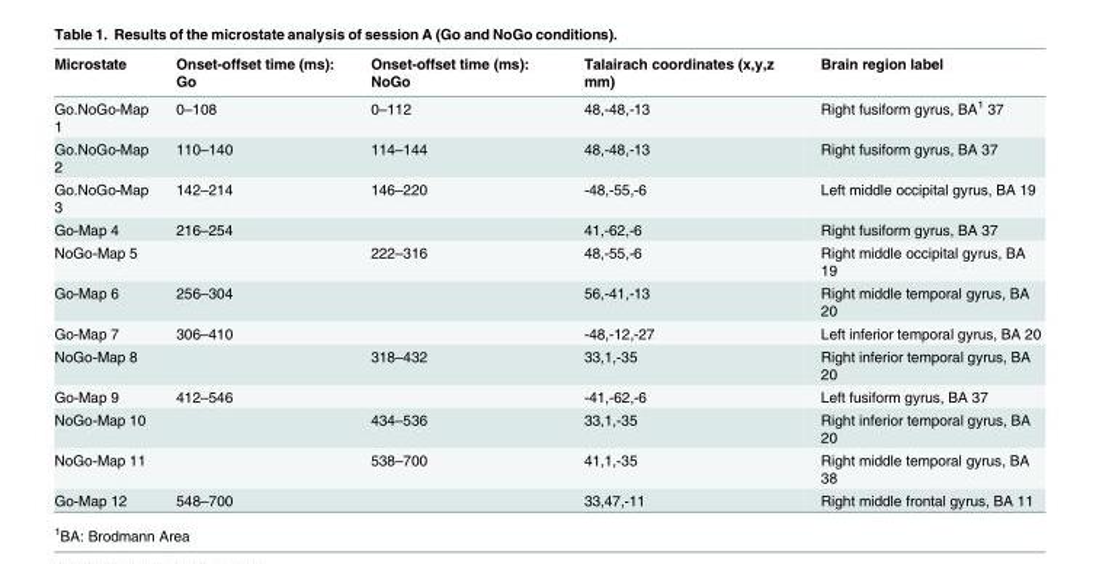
<table><thead><tr><td>Microstate</td><td>Onset-offset time (ms): Go</td><td>Onset-offset time (ms): NoGo</td><td>Talairach coordinates (x,y,z mm)</td><td>Brain region label</td></tr></thead><tbody><tr><td>Go.NoGo-Map 1</td><td>0–108</td><td>0–112</td><td>48,-48,-13</td><td>Right fusiform gyrus, BA<sup>1</sup> 37</td></tr><tr><td>Go.NoGo-Map 2</td><td>110–140</td><td>114–144</td><td>48,-48,-13</td><td>Right fusiform gyrus, BA 37</td></tr><tr><td>Go.NoGo-Map 3</td><td>142–214</td><td>146–220</td><td>-48,-55,-6</td><td>Left middle occipital gyrus, BA 19</td></tr><tr><td>Go-Map 4</td><td>216–254</td><td></td><td>41,-62,-6</td><td>Right fusiform gyrus, BA 37</td></tr><tr><td>NoGo-Map 5</td><td></td><td>222–316</td><td>48,-55,-6</td><td>Right middle occipital gyrus, BA 19</td></tr><tr><td>Go-Map 6</td><td>256–304</td><td></td><td>56,-41,-13</td><td>Right middle temporal gyrus, BA 20</td></tr><tr><td>Go-Map 7</td><td>306–410</td><td></td><td>-48,-12,-27</td><td>Left inferior temporal gyrus, BA 20</td></tr><tr><td>NoGo-Map 8</td><td></td><td>318–432</td><td>33,1,-35</td><td>Right inferior temporal gyrus, BA 20</td></tr><tr><td>Go-Map 9</td><td>412–546</td><td></td><td>-41,-62,-6</td><td>Left fusiform gyrus, BA 37</td></tr><tr><td>NoGo-Map 10</td><td></td><td>434–536</td><td>33,1,-35</td><td>Right inferior temporal gyrus, BA 20</td></tr><tr><td>NoGo-Map 11</td><td></td><td>538–700</td><td>41,1,-35</td><td>Right middle temporal gyrus, BA 38</td></tr><tr><td>Go-Map 12</td><td>548–700</td><td></td><td>33,47,-11</td><td>Right middle frontal gyrus, BA 11</td></tr></tbody></table>